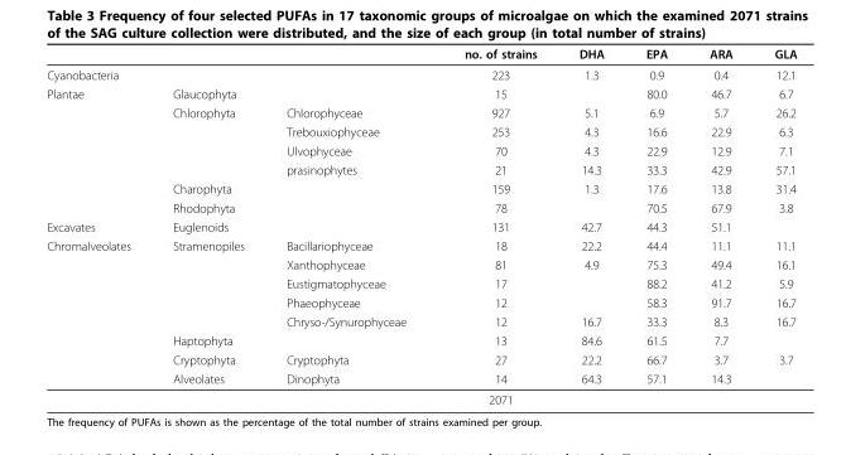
<table><thead><tr><td></td><td></td><td></td><td>no. of strains</td><td>DHA</td><td>EPA</td><td>ARA</td><td>GLA</td></tr></thead><tbody><tr><td>Cyanobacteria</td><td></td><td></td><td>223</td><td>1.3</td><td>0.9</td><td>0.4</td><td>12.1</td></tr><tr><td rowspan="7">Plantae</td><td>Glaucophyta</td><td></td><td>15</td><td></td><td>80.0</td><td>46.7</td><td>6.7</td></tr><tr><td>Chlorophyta</td><td>Chlorophyceae</td><td>927</td><td>5.1</td><td>6.9</td><td>5.7</td><td>26.2</td></tr><tr><td></td><td>Trebouxiophyceae</td><td>253</td><td>4.3</td><td>16.6</td><td>22.9</td><td>6.3</td></tr><tr><td></td><td>Ulvophyceae</td><td>70</td><td>4.3</td><td>22.9</td><td>12.9</td><td>7.1</td></tr><tr><td></td><td>prasinophytes</td><td>21</td><td>14.3</td><td>33.3</td><td>42.9</td><td>57.1</td></tr><tr><td>Charophyta</td><td></td><td>159</td><td>1.3</td><td>17.6</td><td>13.8</td><td>31.4</td></tr><tr><td>Rhodophyta</td><td></td><td>78</td><td></td><td>70.5</td><td>67.9</td><td>3.8</td></tr><tr><td>Excavates</td><td>Euglenoids</td><td></td><td>131</td><td>42.7</td><td>44.3</td><td>51.1</td><td></td></tr><tr><td rowspan="9">Chromalveolates</td><td>Stramenopiles</td><td>Bacillariophyceae</td><td>18</td><td>22.2</td><td>44.4</td><td>11.1</td><td>11.1</td></tr><tr><td></td><td>Xanthophyceae</td><td>81</td><td>4.9</td><td>75.3</td><td>49.4</td><td>16.1</td></tr><tr><td></td><td>Eustigmatophyceae</td><td>17</td><td></td><td>88.2</td><td>41.2</td><td>5.9</td></tr><tr><td></td><td>Phaeophyceae</td><td>12</td><td></td><td>58.3</td><td>91.7</td><td>16.7</td></tr><tr><td></td><td>Chryso-/Synurophyceae</td><td>12</td><td>16.7</td><td>33.3</td><td>8.3</td><td>16.7</td></tr><tr><td>Haptophyta</td><td></td><td>13</td><td>84.6</td><td>61.5</td><td>7.7</td><td></td></tr><tr><td>Cryptophyta</td><td>Cryptophyta</td><td>27</td><td>22.2</td><td>66.7</td><td>3.7</td><td>3.7</td></tr><tr><td>Alveolates</td><td>Dinophyta</td><td>14</td><td>64.3</td><td>57.1</td><td>14.3</td><td></td></tr><tr><td></td><td></td><td>2071</td><td></td><td></td><td></td><td></td></tr></tbody></table>